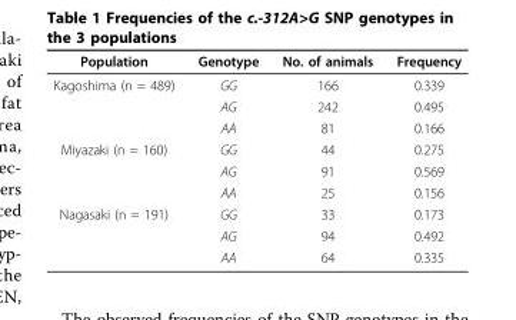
<table><thead><tr><td>Population</td><td>Genotype</td><td>No. of animals</td><td>Frequency</td></tr></thead><tbody><tr><td rowspan="3">Kagoshima (n = 489)</td><td>GG</td><td>166</td><td>0.339</td></tr><tr><td>AG</td><td>242</td><td>0.495</td></tr><tr><td>AA</td><td>81</td><td>0.166</td></tr><tr><td rowspan="3">Miyazaki (n = 160)</td><td>GG</td><td>44</td><td>0.275</td></tr><tr><td>AG</td><td>91</td><td>0.569</td></tr><tr><td>AA</td><td>25</td><td>0.156</td></tr><tr><td rowspan="3">Nagasaki (n = 191)</td><td>GG</td><td>33</td><td>0.173</td></tr><tr><td>AG</td><td>94</td><td>0.492</td></tr><tr><td>AA</td><td>64</td><td>0.335</td></tr></tbody></table>